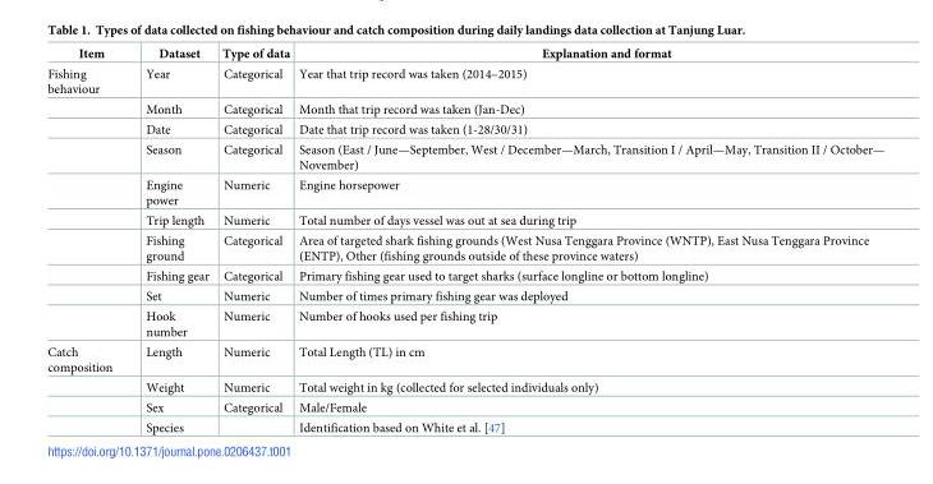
<table><thead><tr><td>Item</td><td>Dataset</td><td>Type of data</td><td>Explanation and format</td></tr></thead><tbody><tr><td rowspan="10">Fishing behaviour</td><td>Year</td><td>Categorical</td><td>Year that trip record was taken (2014–2015)</td></tr><tr><td>Month</td><td>Categorical</td><td>Month that trip record was taken (Jan-Dec)</td></tr><tr><td>Date</td><td>Categorical</td><td>Date that trip record was taken (1-28/30/31)</td></tr><tr><td>Season</td><td>Categorical</td><td>Season (East / June—September, West / December—March, Transition I / April—May, Transition II / October— November)</td></tr><tr><td>Engine power</td><td>Numeric</td><td>Engine horsepower</td></tr><tr><td>Trip length</td><td>Numeric</td><td>Total number of days vessel was out at sea during trip</td></tr><tr><td>Fishing ground</td><td>Categorical</td><td>Area of targeted shark fishing grounds (West Nusa Tenggara Province (WNTP), East Nusa Tenggara Province (ENTP), Other (fishing grounds outside of these province waters)</td></tr><tr><td>Fishing gear</td><td>Categorical</td><td>Primary fishing gear used to target sharks (surface longline or bottom longline)</td></tr><tr><td>Set</td><td>Numeric</td><td>Number of times primary fishing gear was deployed</td></tr><tr><td>Hook number</td><td>Numeric</td><td>Number of hooks used per fishing trip</td></tr><tr><td rowspan="4">Catch composition</td><td>Length</td><td>Numeric</td><td>Total Length (TL) in cm</td></tr><tr><td>Weight</td><td>Numeric</td><td>Total weight in kg (collected for selected individuals only)</td></tr><tr><td>Sex</td><td>Categorical</td><td>Male/Female</td></tr><tr><td>Species</td><td></td><td>Identification based on White et al. [47]</td></tr></tbody></table>